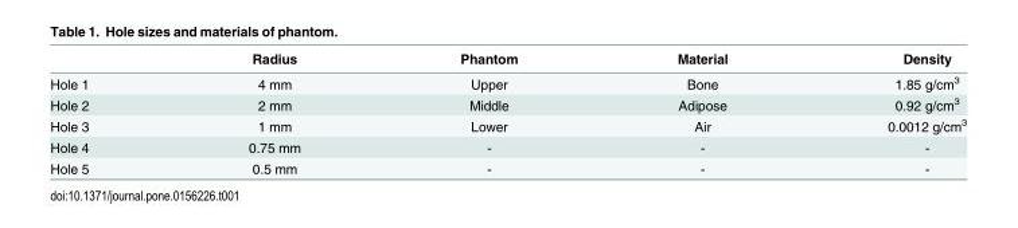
<table><thead><tr><td></td><td>Radius</td><td>Phantom</td><td>Material</td><td>Density</td></tr></thead><tbody><tr><td>Hole 1</td><td>4 mm</td><td>Upper</td><td>Bone</td><td>1.85 g/cm<sup>3</sup></td></tr><tr><td>Hole 2</td><td>2 mm</td><td>Middle</td><td>Adipose</td><td>0.92 g/cm<sup>3</sup></td></tr><tr><td>Hole 3</td><td>1 mm</td><td>Lower</td><td>Air</td><td>0.0012 g/cm<sup>3</sup></td></tr><tr><td>Hole 4</td><td>0.75 mm</td><td>-</td><td>-</td><td>-</td></tr><tr><td>Hole 5</td><td>0.5 mm</td><td>-</td><td>-</td><td>-</td></tr></tbody></table>